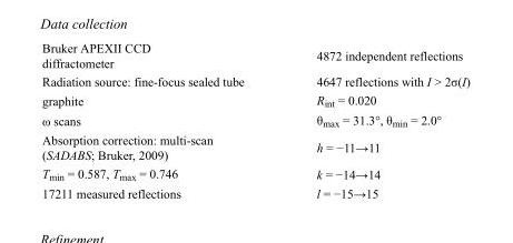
<table><tbody><tr><td>Bruker APEXII CCD diffractometer</td><td>4872 independent reflections</td></tr><tr><td>Radiation source: fine-focus sealed tube</td><td>4647 reflections with I &gt; 2σ(I)</td></tr><tr><td>graphite</td><td>R<sub>int</sub> = 0.020</td></tr><tr><td>ω scans</td><td>θ<sub>max</sub> = 31.3°, θ<sub>min</sub> = 2.0°</td></tr><tr><td>Absorption correction: multi-scan (SADABS; Bruker, 2009)</td><td>h = −11→11</td></tr><tr><td>T<sub>min</sub> = 0.587, T<sub>max</sub> = 0.746</td><td>k = −14→14</td></tr><tr><td>17211 measured reflections</td><td>l = −15→15</td></tr></tbody></table>